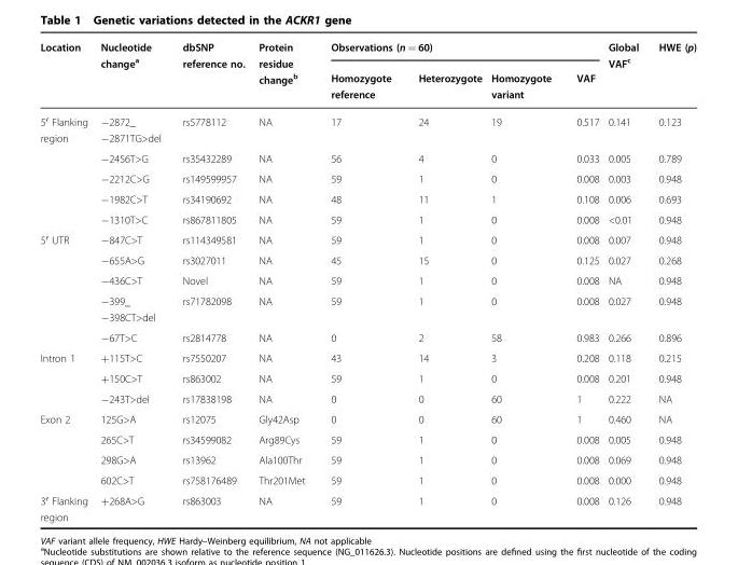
<table><thead><tr><td rowspan="2">Location</td><td rowspan="2">Nucleotide change<sup>a</sup></td><td rowspan="2">dbSNP reference no.</td><td rowspan="2">Protein residue change<sup>b</sup></td><td colspan="4">Observations (n = 60)</td><td rowspan="2">Global VAF<sup>c</sup></td><td rowspan="2">HWE (p)</td></tr><tr><td>Homozygote reference</td><td>Heterozygote</td><td>Homozygote variant</td><td>VAF</td></tr></thead><tbody><tr><td rowspan="5">5′ Flanking region</td><td>−2872_ −2871TG&gt;del</td><td>rs5778112</td><td>NA</td><td>17</td><td>24</td><td>19</td><td>0.517</td><td>0.141</td><td>0.123</td></tr><tr><td>−2456T&gt;G</td><td>rs35432289</td><td>NA</td><td>56</td><td>4</td><td>0</td><td>0.033</td><td>0.005</td><td>0.789</td></tr><tr><td>−2212C&gt;G</td><td>rs149599957</td><td>NA</td><td>59</td><td>1</td><td>0</td><td>0.008</td><td>0.003</td><td>0.948</td></tr><tr><td>−1982C&gt;T</td><td>rs34190692</td><td>NA</td><td>48</td><td>11</td><td>1</td><td>0.108</td><td>0.006</td><td>0.693</td></tr><tr><td>−1310T&gt;C</td><td>rs867811805</td><td>NA</td><td>59</td><td>1</td><td>0</td><td>0.008</td><td>&lt;0.01</td><td>0.948</td></tr><tr><td rowspan="5">5′ UTR</td><td>−847C&gt;T</td><td>rs114349581</td><td>NA</td><td>59</td><td>1</td><td>0</td><td>0.008</td><td>0.007</td><td>0.948</td></tr><tr><td>−655A&gt;G</td><td>rs3027011</td><td>NA</td><td>45</td><td>15</td><td>0</td><td>0.125</td><td>0.027</td><td>0.268</td></tr><tr><td>−436C&gt;T</td><td>Novel</td><td>NA</td><td>59</td><td>1</td><td>0</td><td>0.008</td><td>NA</td><td>0.948</td></tr><tr><td>−399_ −398CT&gt;del</td><td>rs71782098</td><td>NA</td><td>59</td><td>1</td><td>0</td><td>0.008</td><td>0.027</td><td>0.948</td></tr><tr><td>−67T&gt;C</td><td>rs2814778</td><td>NA</td><td>0</td><td>2</td><td>58</td><td>0.983</td><td>0.266</td><td>0.896</td></tr><tr><td rowspan="3">Intron 1</td><td>+115T&gt;C</td><td>rs7550207</td><td>NA</td><td>43</td><td>14</td><td>3</td><td>0.208</td><td>0.118</td><td>0.215</td></tr><tr><td>+150C&gt;T</td><td>rs863002</td><td>NA</td><td>59</td><td>1</td><td>0</td><td>0.008</td><td>0.201</td><td>0.948</td></tr><tr><td>−243T&gt;del</td><td>rs17838198</td><td>NA</td><td>0</td><td>0</td><td>60</td><td>1</td><td>0.222</td><td>NA</td></tr><tr><td rowspan="4">Exon 2</td><td>125G&gt;A</td><td>rs12075</td><td>Gly42Asp</td><td>0</td><td>0</td><td>60</td><td>1</td><td>0.460</td><td>NA</td></tr><tr><td>265C&gt;T</td><td>rs34599082</td><td>Arg89Cys</td><td>59</td><td>1</td><td>0</td><td>0.008</td><td>0.005</td><td>0.948</td></tr><tr><td>298G&gt;A</td><td>rs13962</td><td>Ala100Thr</td><td>59</td><td>1</td><td>0</td><td>0.008</td><td>0.069</td><td>0.948</td></tr><tr><td>602C&gt;T</td><td>rs758176489</td><td>Thr201Met</td><td>59</td><td>1</td><td>0</td><td>0.008</td><td>0.000</td><td>0.948</td></tr><tr><td>3′ Flanking region</td><td>+268A&gt;G</td><td>rs863003</td><td>NA</td><td>59</td><td>1</td><td>0</td><td>0.008</td><td>0.126</td><td>0.948</td></tr></tbody></table>